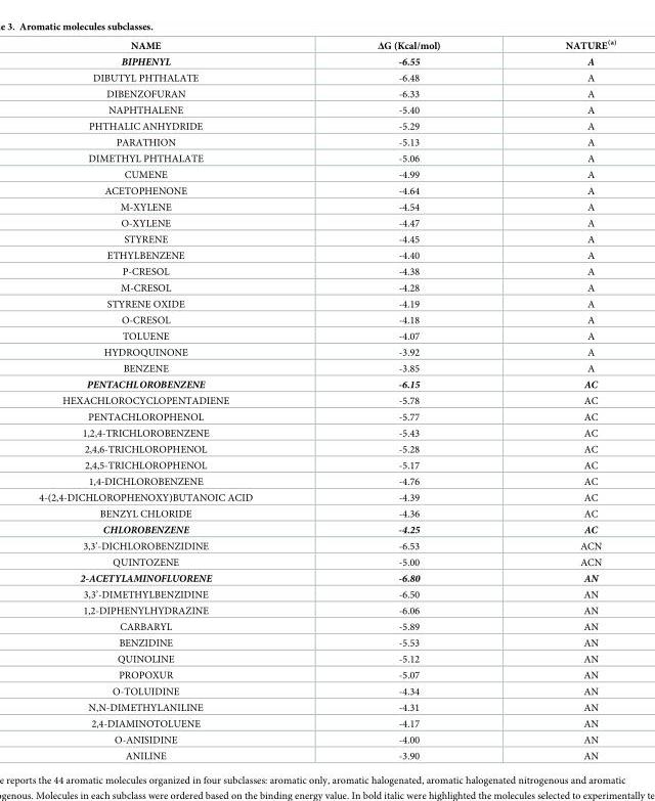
<table><thead><tr><td>NAME</td><td>ΔG (Kcal/mol)</td><td>NATURE<sup>(a)</sup></td></tr></thead><tbody><tr><td>BIPHENYL</td><td>-6.55</td><td>A</td></tr><tr><td>DIBUTYL PHTHALATE</td><td>-6.48</td><td>A</td></tr><tr><td>DIBENZOFURAN</td><td>-6.33</td><td>A</td></tr><tr><td>NAPHTHALENE</td><td>-5.40</td><td>A</td></tr><tr><td>PHTHALIC ANHYDRIDE</td><td>-5.29</td><td>A</td></tr><tr><td>PARATHION</td><td>-5.13</td><td>A</td></tr><tr><td>DIMETHYL PHTHALATE</td><td>-5.06</td><td>A</td></tr><tr><td>CUMENE</td><td>-4.99</td><td>A</td></tr><tr><td>ACETOPHENONE</td><td>-4.64</td><td>A</td></tr><tr><td>M-XYLENE</td><td>-4.54</td><td>A</td></tr><tr><td>O-XYLENE</td><td>-4.47</td><td>A</td></tr><tr><td>STYRENE</td><td>-4.45</td><td>A</td></tr><tr><td>ETHYLBENZENE</td><td>-4.40</td><td>A</td></tr><tr><td>P-CRESOL</td><td>-4.38</td><td>A</td></tr><tr><td>M-CRESOL</td><td>-4.28</td><td>A</td></tr><tr><td>STYRENE OXIDE</td><td>-4.19</td><td>A</td></tr><tr><td>O-CRESOL</td><td>-4.18</td><td>A</td></tr><tr><td>TOLUENE</td><td>-4.07</td><td>A</td></tr><tr><td>HYDROQUINONE</td><td>-3.92</td><td>A</td></tr><tr><td>BENZENE</td><td>-3.85</td><td>A</td></tr><tr><td>PENTACHLOROBENZENE</td><td>-6.15</td><td>AC</td></tr><tr><td>HEXACHLOROCYCLOPENTADIENE</td><td>-5.78</td><td>AC</td></tr><tr><td>PENTACHLOROPHENOL</td><td>-5.77</td><td>AC</td></tr><tr><td>1,2,4-TRICHLOROBENZENE</td><td>-5.43</td><td>AC</td></tr><tr><td>2,4,6-TRICHLOROPHENOL</td><td>-5.28</td><td>AC</td></tr><tr><td>2,4,5-TRICHLOROPHENOL</td><td>-5.17</td><td>AC</td></tr><tr><td>1,4-DICHLOROBENZENE</td><td>-4.76</td><td>AC</td></tr><tr><td>4-(2,4-DICHLOROPHENOXY)BUTANOIC ACID</td><td>-4.39</td><td>AC</td></tr><tr><td>BENZYL CHLORIDE</td><td>-4.36</td><td>AC</td></tr><tr><td>CHLOROBENZENE</td><td>-4.25</td><td>AC</td></tr><tr><td>3,3’-DICHLOROBENZIDINE</td><td>-6.53</td><td>ACN</td></tr><tr><td>QUINTOZENE</td><td>-5.00</td><td>ACN</td></tr><tr><td>2-ACETYLAMINOFLUORENE</td><td>-6.80</td><td>AN</td></tr><tr><td>3,3’-DIMETHYLBENZIDINE</td><td>-6.50</td><td>AN</td></tr><tr><td>1,2-DIPHENYLHYDRAZINE</td><td>-6.06</td><td>AN</td></tr><tr><td>CARBARYL</td><td>-5.89</td><td>AN</td></tr><tr><td>BENZIDINE</td><td>-5.53</td><td>AN</td></tr><tr><td>QUINOLINE</td><td>-5.12</td><td>AN</td></tr><tr><td>PROPOXUR</td><td>-5.07</td><td>AN</td></tr><tr><td>O-TOLUIDINE</td><td>-4.34</td><td>AN</td></tr><tr><td>N,N-DIMETHYLANILINE</td><td>-4.31</td><td>AN</td></tr><tr><td>2,4-DIAMINOTOLUENE</td><td>-4.17</td><td>AN</td></tr><tr><td>O-ANISIDINE</td><td>-4.00</td><td>AN</td></tr><tr><td>ANILINE</td><td>-3.90</td><td>AN</td></tr></tbody></table>